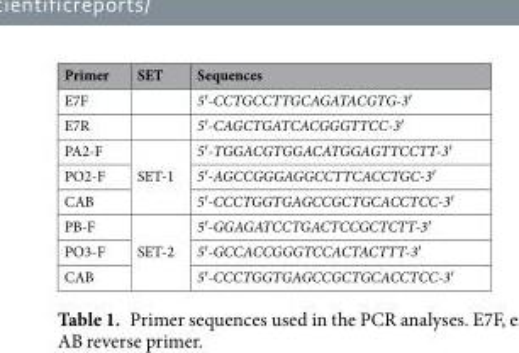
<table><thead><tr><td>Primer</td><td>SET</td><td>Sequences</td></tr></thead><tbody><tr><td>E7F</td><td></td><td>5′-CCTGCCTTGCAGATACGTG-3′</td></tr><tr><td>E7R</td><td></td><td>5′-CAGCTGATCACGGGTTCC-3′</td></tr><tr><td>PA2-F</td><td rowspan="3">SET-1</td><td>5′-TGGACGTGGACATGGAGTTCCTT-3′</td></tr><tr><td>PO2-F</td><td>5′-AGCCGGGAGGCCTTCACCTGC-3′</td></tr><tr><td>CAB</td><td>5′-CCCTGGTGAGCCGCTGCACCTCC-3′</td></tr><tr><td>PB-F</td><td rowspan="3">SET-2</td><td>5′-GGAGATCCTGACTCCGCTCTT-3′</td></tr><tr><td>PO3-F</td><td>5′-GCCACCGGGTCCACTACTTT-3′</td></tr><tr><td>CAB</td><td>5′-CCCTGGTGAGCCGCTGCACCTCC-3′</td></tr></tbody></table>